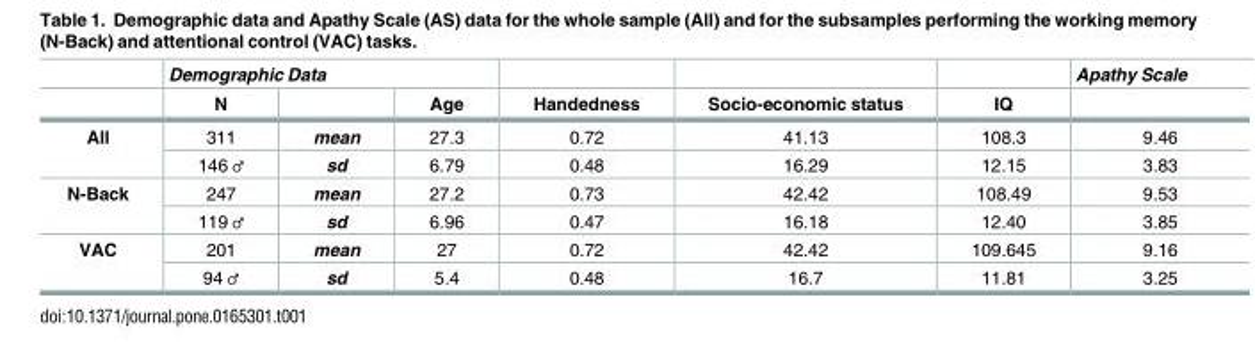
<table><thead><tr><td rowspan="2"></td><td colspan="3">Demographic Data</td><td rowspan="2">Handedness</td><td rowspan="2">Socio-economic status</td><td rowspan="2">IQ</td><td rowspan="2">Apathy Scale</td></tr><tr><td>N</td><td></td><td>Age</td></tr></thead><tbody><tr><td rowspan="2">All</td><td>311</td><td>mean</td><td>27.3</td><td>0.72</td><td>41.13</td><td>108.3</td><td>9.46</td></tr><tr><td>146 ♂</td><td>sd</td><td>6.79</td><td>0.48</td><td>16.29</td><td>12.15</td><td>3.83</td></tr><tr><td rowspan="2">N-Back</td><td>247</td><td>mean</td><td>27.2</td><td>0.73</td><td>42.42</td><td>108.49</td><td>9.53</td></tr><tr><td>119 ♂</td><td>sd</td><td>6.96</td><td>0.47</td><td>16.18</td><td>12.40</td><td>3.85</td></tr><tr><td rowspan="2">VAC</td><td>201</td><td>mean</td><td>27</td><td>0.72</td><td>42.42</td><td>109.645</td><td>9.16</td></tr><tr><td>94 ♂</td><td>sd</td><td>5.4</td><td>0.48</td><td>16.7</td><td>11.81</td><td>3.25</td></tr></tbody></table>